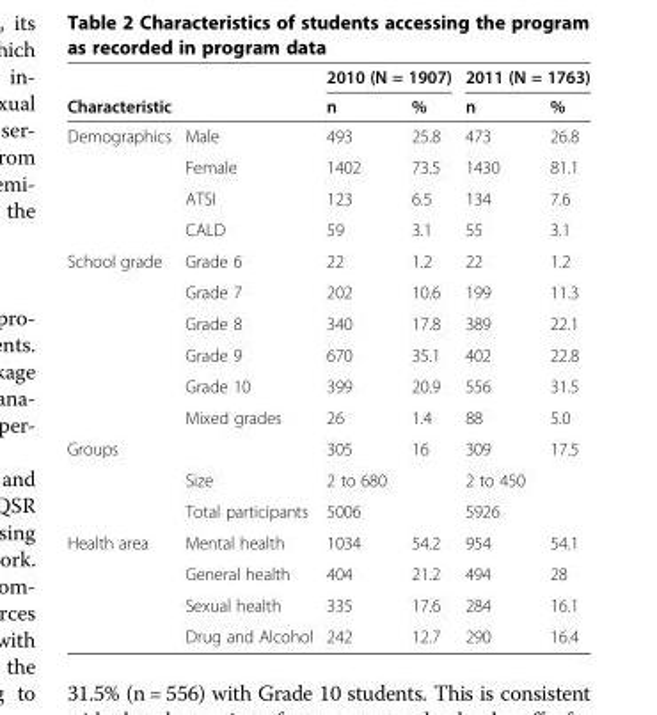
<table><thead><tr><td rowspan="2">Characteristic</td><td rowspan="2"></td><td colspan="2">2010 (N = 1907)</td><td colspan="2">2011 (N = 1763)</td></tr><tr><td>n</td><td>%</td><td>n</td><td>%</td></tr></thead><tbody><tr><td rowspan="4">Demographics</td><td>Male</td><td>493</td><td>25.8</td><td>473</td><td>26.8</td></tr><tr><td>Female</td><td>1402</td><td>73.5</td><td>1430</td><td>81.1</td></tr><tr><td>ATSI</td><td>123</td><td>6.5</td><td>134</td><td>7.6</td></tr><tr><td>CALD</td><td>59</td><td>3.1</td><td>55</td><td>3.1</td></tr><tr><td rowspan="6">School grade</td><td>Grade 6</td><td>22</td><td>1.2</td><td>22</td><td>1.2</td></tr><tr><td>Grade 7</td><td>202</td><td>10.6</td><td>199</td><td>11.3</td></tr><tr><td>Grade 8</td><td>340</td><td>17.8</td><td>389</td><td>22.1</td></tr><tr><td>Grade 9</td><td>670</td><td>35.1</td><td>402</td><td>22.8</td></tr><tr><td>Grade 10</td><td>399</td><td>20.9</td><td>556</td><td>31.5</td></tr><tr><td>Mixed grades</td><td>26</td><td>1.4</td><td>88</td><td>5.0</td></tr><tr><td rowspan="3">Groups</td><td></td><td>305</td><td>16</td><td>309</td><td>17.5</td></tr><tr><td>Size</td><td>2 to 680</td><td></td><td>2 to 450</td><td></td></tr><tr><td>Total participants</td><td>5006</td><td></td><td>5926</td><td></td></tr><tr><td rowspan="4">Health area</td><td>Mental health</td><td>1034</td><td>54.2</td><td>954</td><td>54.1</td></tr><tr><td>General health</td><td>404</td><td>21.2</td><td>494</td><td>28</td></tr><tr><td>Sexual health</td><td>335</td><td>17.6</td><td>284</td><td>16.1</td></tr><tr><td>Drug and Alcohol</td><td>242</td><td>12.7</td><td>290</td><td>16.4</td></tr></tbody></table>